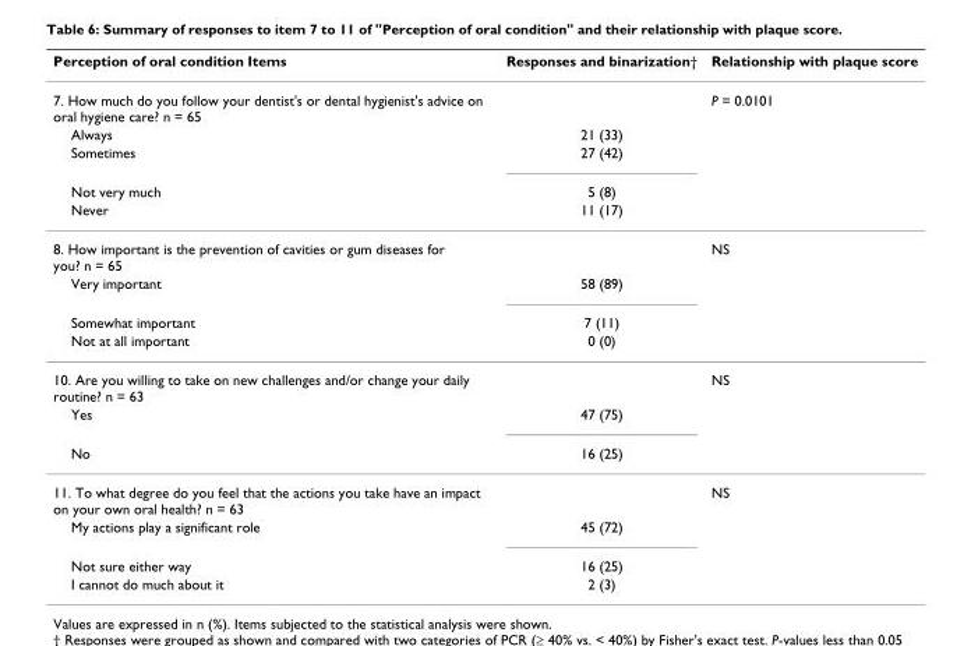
<table><thead><tr><td>Perception of oral condition Items</td><td>Responses and binarization†</td><td>Relationship with plaque score</td></tr></thead><tbody><tr><td>7. How much do you follow your dentist&#x27;s or dental hygienist&#x27;s advice on oral hygiene care? n = 65</td><td></td><td>P = 0.0101</td></tr><tr><td>Always</td><td>21 (33)</td><td></td></tr><tr><td>Sometimes</td><td>27 (42)</td><td></td></tr><tr><td>Not very much</td><td>5 (8)</td><td></td></tr><tr><td>Never</td><td>11 (17)</td><td></td></tr><tr><td>8. How important is the prevention of cavities or gum diseases for you? n = 65</td><td></td><td>NS</td></tr><tr><td>Very important</td><td>58 (89)</td><td></td></tr><tr><td>Somewhat important</td><td>7 (11)</td><td></td></tr><tr><td>Not at all important</td><td>0 (0)</td><td></td></tr><tr><td>10. Are you willing to take on new challenges and/or change your daily routine? n = 63</td><td></td><td>NS</td></tr><tr><td>Yes</td><td>47 (75)</td><td></td></tr><tr><td>No</td><td>16 (25)</td><td></td></tr><tr><td>11. To what degree do you feel that the actions you take have an impact on your own oral health? n = 63</td><td></td><td>NS</td></tr><tr><td>My actions play a significant role</td><td>45 (72)</td><td></td></tr><tr><td>Not sure either way</td><td>16 (25)</td><td></td></tr><tr><td>I cannot do much about it</td><td>2 (3)</td><td></td></tr></tbody></table>